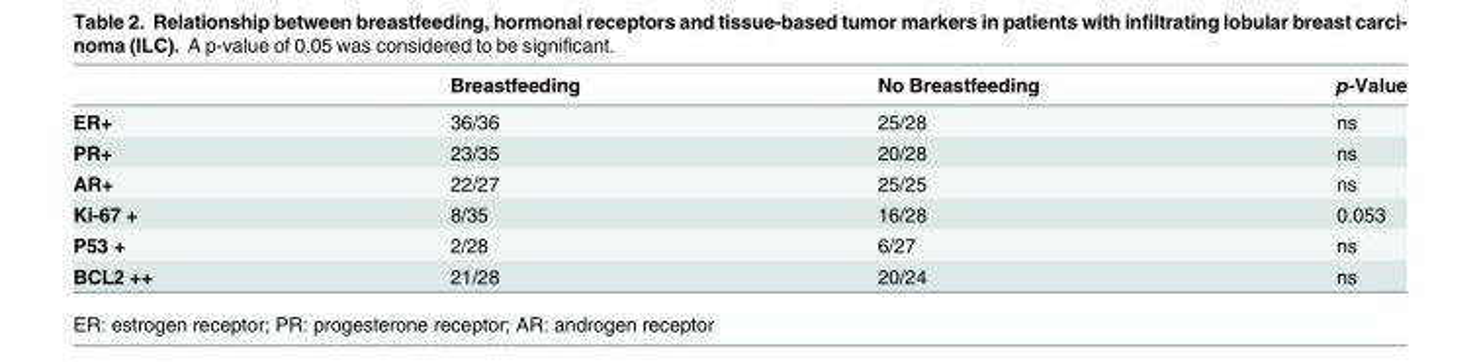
<table><thead><tr><td></td><td>Breastfeeding</td><td>No Breastfeeding</td><td>p-Value</td></tr></thead><tbody><tr><td>ER+</td><td>36/36</td><td>25/28</td><td>ns</td></tr><tr><td>PR+</td><td>23/35</td><td>20/28</td><td>ns</td></tr><tr><td>AR+</td><td>22/27</td><td>25/25</td><td>ns</td></tr><tr><td>Ki-67 +</td><td>8/35</td><td>16/28</td><td>0.053</td></tr><tr><td>P53 +</td><td>2/28</td><td>6/27</td><td>ns</td></tr><tr><td>BCL2 ++</td><td>21/28</td><td>20/24</td><td>ns</td></tr></tbody></table>